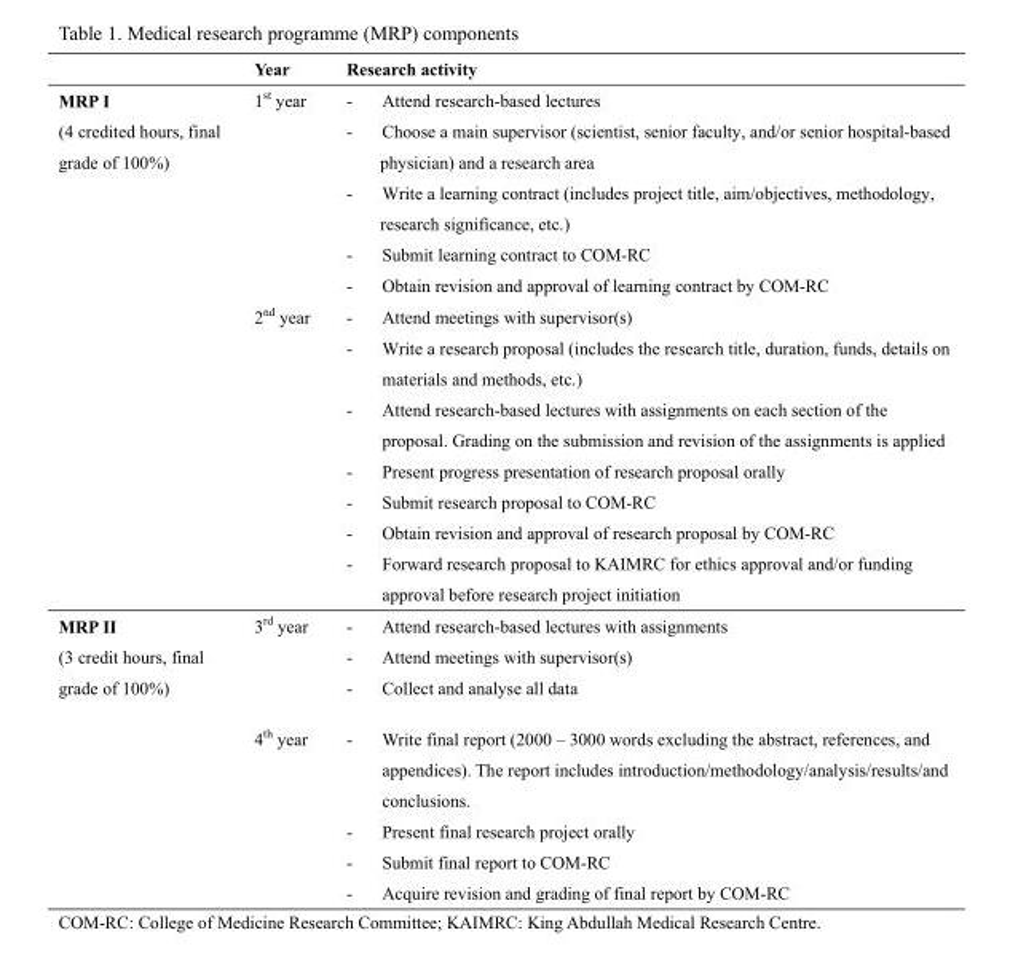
<table><thead><tr><td></td><td>Year</td><td>Research activity</td></tr></thead><tbody><tr><td rowspan="2">MRP I (4 credited hours, final grade of 100%)</td><td>1<sup>st</sup> year</td><td>- Attend research-based lectures - Choose a main supervisor (scientist, senior faculty, and/or senior hospital-based physician) and a research area - Write a learning contract (includes project title, aim/objectives, methodology, research significance, etc.) - Submit learning contract to COM-RC - Obtain revision and approval of learning contract by COM-RC</td></tr><tr><td>2<sup>nd</sup> year</td><td>- Attend meetings with supervisor(s) - Write a research proposal (includes the research title, duration, funds, details on materials and methods, etc.) - Attend research-based lectures with assignments on each section of the proposal. Grading on the submission and revision of the assignments is applied - Present progress presentation of research proposal orally - Submit research proposal to COM-RC - Obtain revision and approval of research proposal by COM-RC - Forward research proposal to KAIMRC for ethics approval and/or funding approval before research project initiation</td></tr><tr><td rowspan="2">MRP II (3 credit hours, final grade of 100%)</td><td>3<sup>rd</sup> year</td><td>- Attend research-based lectures with assignments - Attend meetings with supervisor(s) - Collect and analyse all data</td></tr><tr><td>4<sup>th</sup> year</td><td>- Write final report (2000 – 3000 words excluding the abstract, references, and appendices). The report includes introduction/methodology/analysis/results/and conclusions. - Present final research project orally - Submit final report to COM-RC - Acquire revision and grading of final report by COM-RC</td></tr></tbody></table>